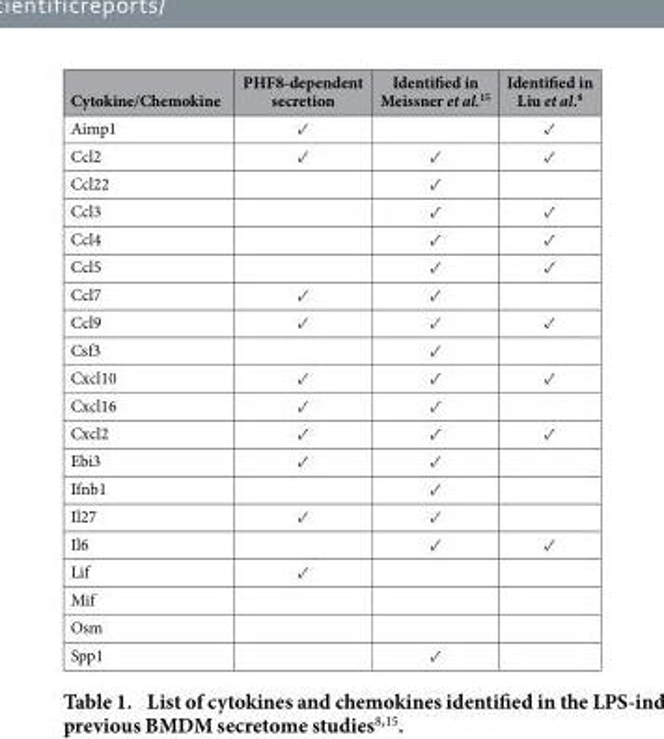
<table><thead><tr><td>Cytokine/Chemokine</td><td>PHF8-dependent secretion</td><td>Identified in Meissner et al.<sup>15</sup></td><td>Identified in Liu et al.<sup>8</sup></td></tr></thead><tbody><tr><td>Aimp1</td><td>✓</td><td></td><td>✓</td></tr><tr><td>Ccl2</td><td>✓</td><td>✓</td><td>✓</td></tr><tr><td>Ccl22</td><td></td><td>✓</td><td></td></tr><tr><td>Ccl3</td><td></td><td>✓</td><td>✓</td></tr><tr><td>Ccl4</td><td></td><td>✓</td><td>✓</td></tr><tr><td>Ccl5</td><td></td><td>✓</td><td>✓</td></tr><tr><td>Ccl7</td><td>✓</td><td>✓</td><td></td></tr><tr><td>Ccl9</td><td>✓</td><td>✓</td><td>✓</td></tr><tr><td>Csf3</td><td></td><td>✓</td><td></td></tr><tr><td>Cxcl10</td><td>✓</td><td>✓</td><td>✓</td></tr><tr><td>Cxcl16</td><td>✓</td><td>✓</td><td></td></tr><tr><td>Cxcl2</td><td>✓</td><td>✓</td><td>✓</td></tr><tr><td>Ebi3</td><td>✓</td><td>✓</td><td></td></tr><tr><td>Ifnb1</td><td></td><td>✓</td><td></td></tr><tr><td>Il27</td><td>✓</td><td>✓</td><td></td></tr><tr><td>Il6</td><td></td><td>✓</td><td>✓</td></tr><tr><td>Lif</td><td>✓</td><td></td><td></td></tr><tr><td colspan="4">Mif</td></tr><tr><td colspan="4">Osm</td></tr><tr><td>Spp1</td><td></td><td>✓</td><td></td></tr></tbody></table>